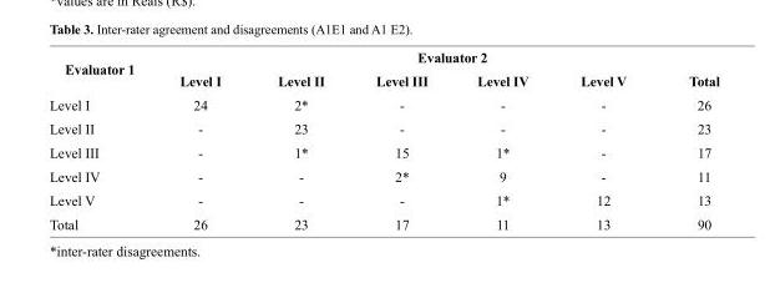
<table><thead><tr><td rowspan="2">Evaluator 1</td><td colspan="6">Evaluator 2</td></tr><tr><td>Level I</td><td>Level II</td><td>Level III</td><td>Level IV</td><td>Level V</td><td>Total</td></tr></thead><tbody><tr><td>Level I</td><td>24</td><td>2*</td><td>-</td><td>-</td><td>-</td><td>26</td></tr><tr><td>Level II</td><td>-</td><td>23</td><td>-</td><td>-</td><td>-</td><td>23</td></tr><tr><td>Level III</td><td>-</td><td>1*</td><td>15</td><td>1*</td><td>-</td><td>17</td></tr><tr><td>Level IV</td><td>-</td><td>-</td><td>2*</td><td>9</td><td>-</td><td>11</td></tr><tr><td>Level V</td><td>-</td><td>-</td><td>-</td><td>1*</td><td>12</td><td>13</td></tr><tr><td>Total</td><td>26</td><td>23</td><td>17</td><td>11</td><td>13</td><td>90</td></tr></tbody></table>